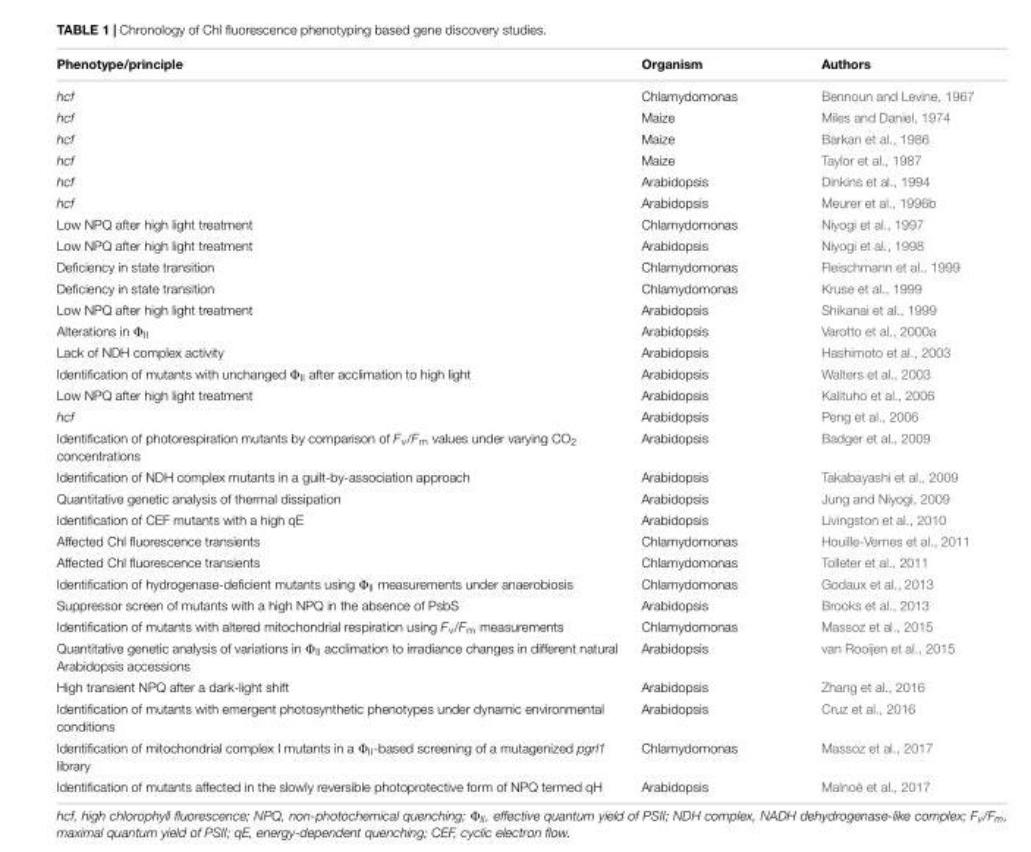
<table><thead><tr><td>Phenotype/principle</td><td>Organism</td><td>Authors</td></tr></thead><tbody><tr><td>hcf</td><td>Chlamydomonas</td><td>Bennoun and Levine, 1967</td></tr><tr><td>hcf</td><td>Maize</td><td>Miles and Daniel, 1974</td></tr><tr><td>hcf</td><td>Maize</td><td>Barkan et al., 1986</td></tr><tr><td>hcf</td><td>Maize</td><td>Taylor et al., 1987</td></tr><tr><td>hcf</td><td>Arabidopsis</td><td>Dinkins et al., 1994</td></tr><tr><td>hcf</td><td>Arabidopsis</td><td>Meurer et al., 1996b</td></tr><tr><td>Low NPQ after high light treatment</td><td>Chlamydomonas</td><td>Niyogi et al., 1997</td></tr><tr><td>Low NPQ after high light treatment</td><td>Arabidopsis</td><td>Niyogi et al., 1998</td></tr><tr><td>Deficiency in state transition</td><td>Chlamydomonas</td><td>Fleischmann et al., 1999</td></tr><tr><td>Deficiency in state transition</td><td>Chlamydomonas</td><td>Kruse et al., 1999</td></tr><tr><td>Low NPQ after high light treatment</td><td>Arabidopsis</td><td>Shikanai et al., 1999</td></tr><tr><td>Alterations in Φ<sub>II</sub></td><td>Arabidopsis</td><td>Varotto et al., 2000a</td></tr><tr><td>Lack of NDH complex activity</td><td>Arabidopsis</td><td>Hashimoto et al., 2003</td></tr><tr><td>Identification of mutants with unchanged Φ<sub>II</sub> after acclimation to high light</td><td>Arabidopsis</td><td>Walters et al., 2003</td></tr><tr><td>Low NPQ after high light treatment</td><td>Arabidopsis</td><td>Kalituho et al., 2006</td></tr><tr><td>hcf</td><td>Arabidopsis</td><td>Peng et al., 2006</td></tr><tr><td>Identification of photorespiration mutants by comparison of F<sub>v</sub>/F<sub>m</sub> values under varying CO<sub>2</sub> concentrations</td><td>Arabidopsis</td><td>Badger et al., 2009</td></tr><tr><td>Identification of NDH complex mutants in a guilt-by-association approach</td><td>Arabidopsis</td><td>Takabayashi et al., 2009</td></tr><tr><td>Quantitative genetic analysis of thermal dissipation</td><td>Arabidopsis</td><td>Jung and Niyogi, 2009</td></tr><tr><td>Identification of CEF mutants with a high qE</td><td>Arabidopsis</td><td>Livingston et al., 2010</td></tr><tr><td>Affected Chl fluorescence transients</td><td>Chlamydomonas</td><td>Houille-Vernes et al., 2011</td></tr><tr><td>Affected Chl fluorescence transients</td><td>Chlamydomonas</td><td>Tolleter et al., 2011</td></tr><tr><td>Identification of hydrogenase-deficient mutants using Φ<sub>II</sub> measurements under anaerobiosis</td><td>Chlamydomonas</td><td>Godaux et al., 2013</td></tr><tr><td>Suppressor screen of mutants with a high NPQ in the absence of PsbS</td><td>Arabidopsis</td><td>Brooks et al., 2013</td></tr><tr><td>Identification of mutants with altered mitochondrial respiration using F<sub>v</sub>/F<sub>m</sub> measurements</td><td>Chlamydomonas</td><td>Massoz et al., 2015</td></tr><tr><td>Quantitative genetic analysis of variations in Φ<sub>II</sub> acclimation to irradiance changes in different natural Arabidopsis accessions</td><td>Arabidopsis</td><td>van Rooijen et al., 2015</td></tr><tr><td>High transient NPQ after a dark-light shift</td><td>Arabidopsis</td><td>Zhang et al., 2016</td></tr><tr><td>Identification of mutants with emergent photosynthetic phenotypes under dynamic environmental conditions</td><td>Arabidopsis</td><td>Cruz et al., 2016</td></tr><tr><td>Identification of mitochondrial complex I mutants in a Φ<sub>II</sub>-based screening of a mutagenized pgrl1 library</td><td>Chlamydomonas</td><td>Massoz et al., 2017</td></tr><tr><td>Identification of mutants affected in the slowly reversible photoprotective form of NPQ termed qH</td><td>Arabidopsis</td><td>Malnoë et al., 2017</td></tr></tbody></table>